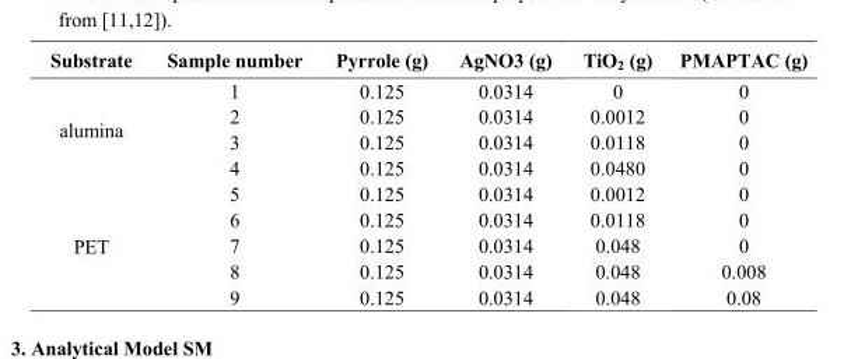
<table><thead><tr><td>Substrate</td><td>Sample number</td><td>Pyrrole (g)</td><td>AgNO3 (g)</td><td>TiO2 (g)</td><td>PMAPTAC (g)</td></tr></thead><tbody><tr><td rowspan="4">alumina</td><td>1</td><td>0.125</td><td>0.0314</td><td>0</td><td>0</td></tr><tr><td>2</td><td>0.125</td><td>0.0314</td><td>0.0012</td><td>0</td></tr><tr><td>3</td><td>0.125</td><td>0.0314</td><td>0.0118</td><td>0</td></tr><tr><td>4</td><td>0.125</td><td>0.0314</td><td>0.0480</td><td>0</td></tr><tr><td rowspan="5">PET</td><td>5</td><td>0.125</td><td>0.0314</td><td>0.0012</td><td>0</td></tr><tr><td>6</td><td>0.125</td><td>0.0314</td><td>0.0118</td><td>0</td></tr><tr><td>7</td><td>0.125</td><td>0.0314</td><td>0.048</td><td>0</td></tr><tr><td>8</td><td>0.125</td><td>0.0314</td><td>0.048</td><td>0.008</td></tr><tr><td>9</td><td>0.125</td><td>0.0314</td><td>0.048</td><td>0.08</td></tr></tbody></table>